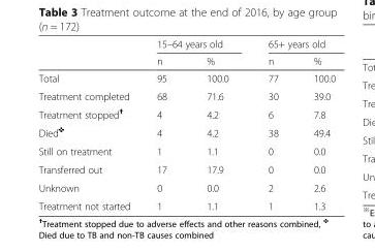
<table><thead><tr><td rowspan="2"></td><td colspan="2">15–64 years old</td><td colspan="2">65+ years old</td></tr><tr><td>n</td><td>%</td><td>n</td><td>%</td></tr></thead><tbody><tr><td>Total</td><td>95</td><td>100.0</td><td>77</td><td>100.0</td></tr><tr><td>Treatment completed</td><td>68</td><td>71.6</td><td>30</td><td>39.0</td></tr><tr><td>Treatment stopped<sup>✝</sup></td><td>4</td><td>4.2</td><td>6</td><td>7.8</td></tr><tr><td>Died<sup>✜</sup></td><td>4</td><td>4.2</td><td>38</td><td>49.4</td></tr><tr><td>Still on treatment</td><td>1</td><td>1.1</td><td>0</td><td>0.0</td></tr><tr><td>Transferred out</td><td>17</td><td>17.9</td><td>0</td><td>0.0</td></tr><tr><td>Unknown</td><td>0</td><td>0.0</td><td>2</td><td>2.6</td></tr><tr><td>Treatment not started</td><td>1</td><td>1.1</td><td>1</td><td>1.3</td></tr></tbody></table>